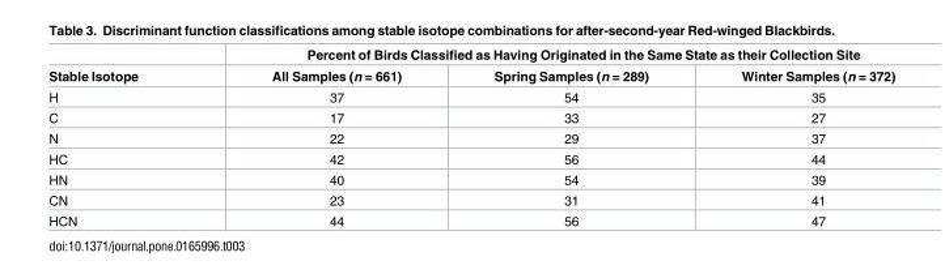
<table><thead><tr><td rowspan="2">Stable Isotope</td><td colspan="3">Percent of Birds Classified as Having Originated in the Same State as their Collection Site</td></tr><tr><td>All Samples (n = 661)</td><td>Spring Samples (n = 289)</td><td>Winter Samples (n = 372)</td></tr></thead><tbody><tr><td>H</td><td>37</td><td>54</td><td>35</td></tr><tr><td>C</td><td>17</td><td>33</td><td>27</td></tr><tr><td>N</td><td>22</td><td>29</td><td>37</td></tr><tr><td>HC</td><td>42</td><td>56</td><td>44</td></tr><tr><td>HN</td><td>40</td><td>54</td><td>39</td></tr><tr><td>CN</td><td>23</td><td>31</td><td>41</td></tr><tr><td>HCN</td><td>44</td><td>56</td><td>47</td></tr></tbody></table>